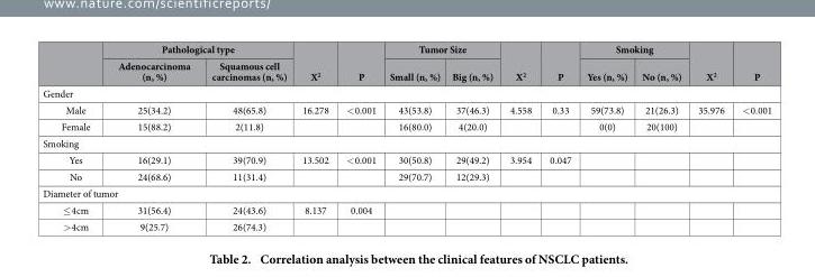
<table><thead><tr><td rowspan="2"></td><td colspan="2">Pathological type</td><td rowspan="2">X<sup>2</sup></td><td rowspan="2">P</td><td colspan="2">Tumor Size</td><td rowspan="2">X<sup>2</sup></td><td rowspan="2">P</td><td colspan="2">Smoking</td><td rowspan="2">X<sup>2</sup></td><td rowspan="2">P</td></tr><tr><td>Adenocarcinoma (n, %)</td><td>Squamous cell carcinomas (n, %)</td><td>Small (n, %)</td><td>Big (n, %)</td><td>Yes (n, %)</td><td>No (n, %)</td></tr></thead><tbody><tr><td colspan="13">Gender</td></tr><tr><td>Male</td><td>25(34.2)</td><td>48(65.8)</td><td>16.278</td><td>&lt; 0.001</td><td>43(53.8)</td><td>37(46.3)</td><td>4.558</td><td>0.33</td><td>59(73.8)</td><td>21(26.3)</td><td>35.976</td><td>&lt; 0.001</td></tr><tr><td>Female</td><td>15(88.2)</td><td>2(11.8)</td><td></td><td></td><td>16(80.0)</td><td>4(20.0)</td><td></td><td></td><td>0(0)</td><td>20(100)</td><td></td><td></td></tr><tr><td colspan="13">Smoking</td></tr><tr><td>Yes</td><td>16(29.1)</td><td>39(70.9)</td><td>13.502</td><td>&lt; 0.001</td><td>30(50.8)</td><td>29(49.2)</td><td>3.954</td><td>0.047</td><td></td><td></td><td></td><td></td></tr><tr><td>No</td><td>24(68.6)</td><td>11(31.4)</td><td></td><td></td><td>29(70.7)</td><td>12(29.3)</td><td></td><td></td><td></td><td></td><td></td><td></td></tr><tr><td colspan="13">Diameter of tumor</td></tr><tr><td>≤ 4cm</td><td>31(56.4)</td><td>24(43.6)</td><td>8.137</td><td>0.004</td><td></td><td></td><td></td><td></td><td></td><td></td><td></td><td></td></tr><tr><td>&gt; 4cm</td><td>9(25.7)</td><td>26(74.3)</td><td></td><td></td><td></td><td></td><td></td><td></td><td></td><td></td><td></td><td></td></tr></tbody></table>